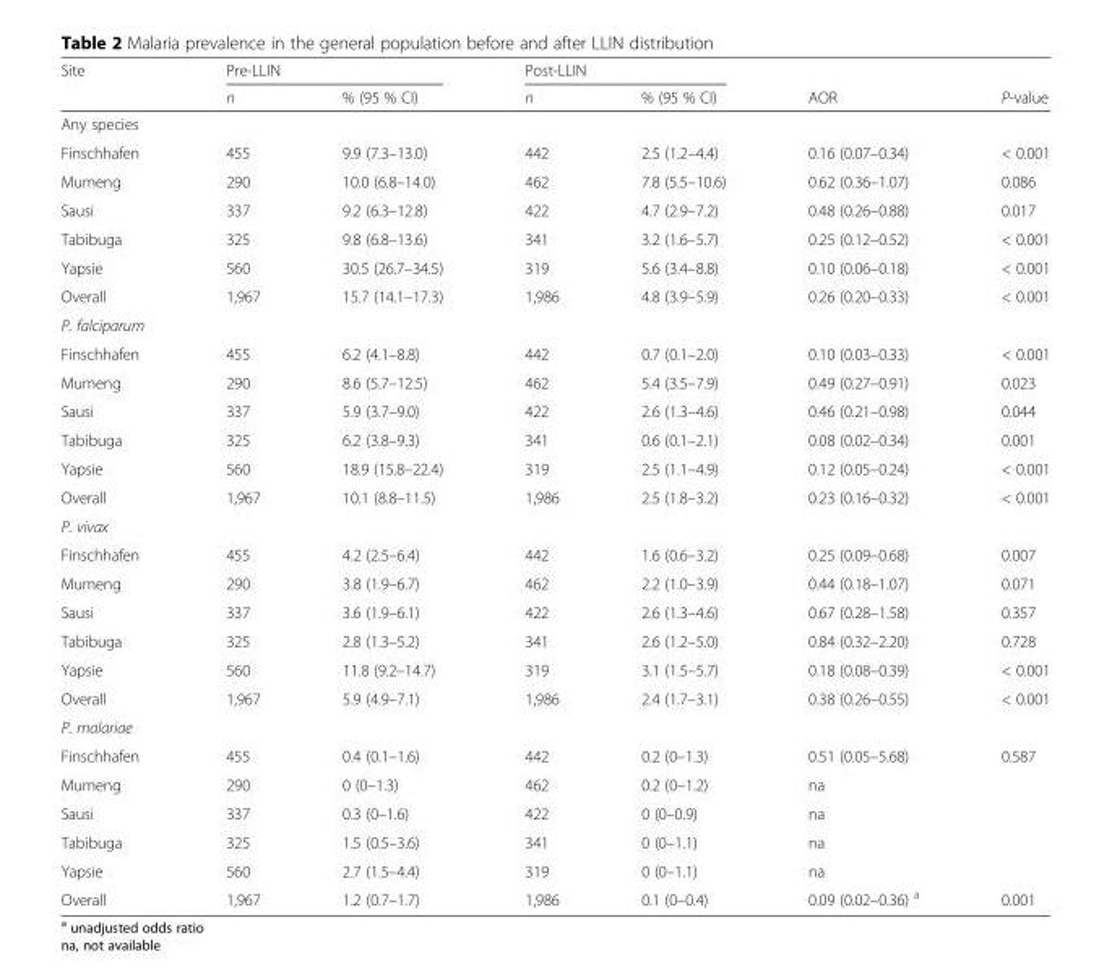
<table><thead><tr><td rowspan="2">Site</td><td colspan="2">Pre-LLIN</td><td colspan="2">Post-LLIN</td><td rowspan="2">AOR</td><td rowspan="2">P-value</td></tr><tr><td>n</td><td>% (95 % CI)</td><td>n</td><td>% (95 % CI)</td></tr></thead><tbody><tr><td colspan="7">Any species</td></tr><tr><td>Finschhafen</td><td>455</td><td>9.9 (7.3–13.0)</td><td>442</td><td>2.5 (1.2–4.4)</td><td>0.16 (0.07–0.34)</td><td>&lt; 0.001</td></tr><tr><td>Mumeng</td><td>290</td><td>10.0 (6.8–14.0)</td><td>462</td><td>7.8 (5.5–10.6)</td><td>0.62 (0.36–1.07)</td><td>0.086</td></tr><tr><td>Sausi</td><td>337</td><td>9.2 (6.3–12.8)</td><td>422</td><td>4.7 (2.9–7.2)</td><td>0.48 (0.26–0.88)</td><td>0.017</td></tr><tr><td>Tabibuga</td><td>325</td><td>9.8 (6.8–13.6)</td><td>341</td><td>3.2 (1.6–5.7)</td><td>0.25 (0.12–0.52)</td><td>&lt; 0.001</td></tr><tr><td>Yapsie</td><td>560</td><td>30.5 (26.7–34.5)</td><td>319</td><td>5.6 (3.4–8.8)</td><td>0.10 (0.06–0.18)</td><td>&lt; 0.001</td></tr><tr><td>Overall</td><td>1,967</td><td>15.7 (14.1–17.3)</td><td>1,986</td><td>4.8 (3.9–5.9)</td><td>0.26 (0.20–0.33)</td><td>&lt; 0.001</td></tr><tr><td colspan="7">P. falciparum</td></tr><tr><td>Finschhafen</td><td>455</td><td>6.2 (4.1–8.8)</td><td>442</td><td>0.7 (0.1–2.0)</td><td>0.10 (0.03–0.33)</td><td>&lt; 0.001</td></tr><tr><td>Mumeng</td><td>290</td><td>8.6 (5.7–12.5)</td><td>462</td><td>5.4 (3.5–7.9)</td><td>0.49 (0.27–0.91)</td><td>0.023</td></tr><tr><td>Sausi</td><td>337</td><td>5.9 (3.7–9.0)</td><td>422</td><td>2.6 (1.3–4.6)</td><td>0.46 (0.21–0.98)</td><td>0.044</td></tr><tr><td>Tabibuga</td><td>325</td><td>6.2 (3.8–9.3)</td><td>341</td><td>0.6 (0.1–2.1)</td><td>0.08 (0.02–0.34)</td><td>0.001</td></tr><tr><td>Yapsie</td><td>560</td><td>18.9 (15.8–22.4)</td><td>319</td><td>2.5 (1.1–4.9)</td><td>0.12 (0.05–0.24)</td><td>&lt; 0.001</td></tr><tr><td>Overall</td><td>1,967</td><td>10.1 (8.8–11.5)</td><td>1,986</td><td>2.5 (1.8–3.2)</td><td>0.23 (0.16–0.32)</td><td>&lt; 0.001</td></tr><tr><td colspan="7">P. vivax</td></tr><tr><td>Finschhafen</td><td>455</td><td>4.2 (2.5–6.4)</td><td>442</td><td>1.6 (0.6–3.2)</td><td>0.25 (0.09–0.68)</td><td>0.007</td></tr><tr><td>Mumeng</td><td>290</td><td>3.8 (1.9–6.7)</td><td>462</td><td>2.2 (1.0–3.9)</td><td>0.44 (0.18–1.07)</td><td>0.071</td></tr><tr><td>Sausi</td><td>337</td><td>3.6 (1.9–6.1)</td><td>422</td><td>2.6 (1.3–4.6)</td><td>0.67 (0.28–1.58)</td><td>0.357</td></tr><tr><td>Tabibuga</td><td>325</td><td>2.8 (1.3–5.2)</td><td>341</td><td>2.6 (1.2–5.0)</td><td>0.84 (0.32–2.20)</td><td>0.728</td></tr><tr><td>Yapsie</td><td>560</td><td>11.8 (9.2–14.7)</td><td>319</td><td>3.1 (1.5–5.7)</td><td>0.18 (0.08–0.39)</td><td>&lt; 0.001</td></tr><tr><td>Overall</td><td>1,967</td><td>5.9 (4.9–7.1)</td><td>1,986</td><td>2.4 (1.7–3.1)</td><td>0.38 (0.26–0.55)</td><td>&lt; 0.001</td></tr><tr><td colspan="7">P. malariae</td></tr><tr><td>Finschhafen</td><td>455</td><td>0.4 (0.1–1.6)</td><td>442</td><td>0.2 (0–1.3)</td><td>0.51 (0.05–5.68)</td><td>0.587</td></tr><tr><td>Mumeng</td><td>290</td><td>0 (0–1.3)</td><td>462</td><td>0.2 (0–1.2)</td><td>na</td><td></td></tr><tr><td>Sausi</td><td>337</td><td>0.3 (0–1.6)</td><td>422</td><td>0 (0–0.9)</td><td>na</td><td></td></tr><tr><td>Tabibuga</td><td>325</td><td>1.5 (0.5–3.6)</td><td>341</td><td>0 (0–1.1)</td><td>na</td><td></td></tr><tr><td>Yapsie</td><td>560</td><td>2.7 (1.5–4.4)</td><td>319</td><td>0 (0–1.1)</td><td>na</td><td></td></tr><tr><td>Overall</td><td>1,967</td><td>1.2 (0.7–1.7)</td><td>1,986</td><td>0.1 (0–0.4)</td><td>0.09 (0.02–0.36) <sup>a</sup></td><td>0.001</td></tr></tbody></table>